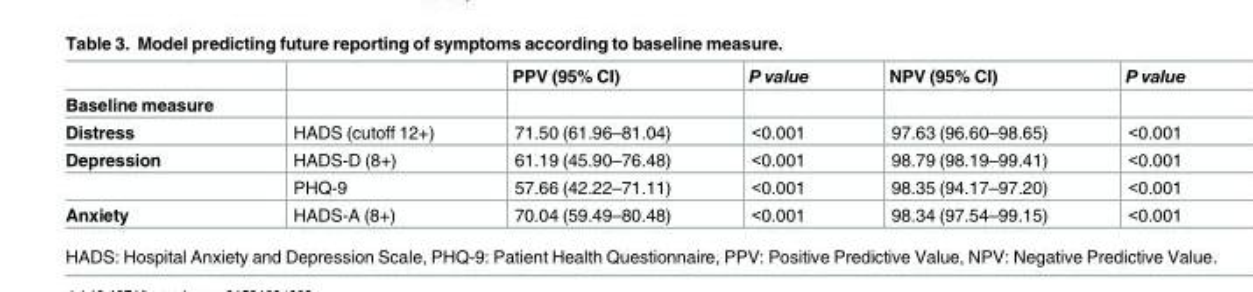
<table><thead><tr><td></td><td></td><td>PPV (95% CI)</td><td>P value</td><td>NPV (95% CI)</td><td>P value</td></tr></thead><tbody><tr><td colspan="6">Baseline measure</td></tr><tr><td>Distress</td><td>HADS (cutoff 12+)</td><td>71.50 (61.96–81.04)</td><td>&lt;0.001</td><td>97.63 (96.60–98.65)</td><td>&lt;0.001</td></tr><tr><td rowspan="2">Depression</td><td>HADS-D (8+)</td><td>61.19 (45.90–76.48)</td><td>&lt;0.001</td><td>98.79 (98.19–99.41)</td><td>&lt;0.001</td></tr><tr><td>PHQ-9</td><td>57.66 (42.22–71.11)</td><td>&lt;0.001</td><td>98.35 (94.17–97.20)</td><td>&lt;0.001</td></tr><tr><td>Anxiety</td><td>HADS-A (8+)</td><td>70.04 (59.49–80.48)</td><td>&lt;0.001</td><td>98.34 (97.54–99.15)</td><td>&lt;0.001</td></tr></tbody></table>